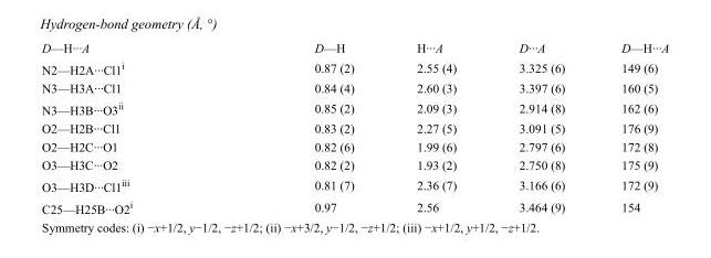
<table><tbody><tr><td>D—H···A</td><td>D—H</td><td>H···A</td><td>D···A</td><td>D—H···A</td></tr><tr><td>N2—H2A···Cl1<sup>i</sup></td><td>0.87 (2)</td><td>2.55 (4)</td><td>3.325 (6)</td><td>149 (6)</td></tr><tr><td>N3—H3A···Cl1</td><td>0.84 (4)</td><td>2.60 (3)</td><td>3.397 (6)</td><td>160 (5)</td></tr><tr><td>N3—H3B···O3<sup>ii</sup></td><td>0.85 (2)</td><td>2.09 (3)</td><td>2.914 (8)</td><td>162 (6)</td></tr><tr><td>O2—H2B···Cl1</td><td>0.83 (2)</td><td>2.27 (5)</td><td>3.091 (5)</td><td>176 (9)</td></tr><tr><td>O2—H2C···O1</td><td>0.82 (6)</td><td>1.99 (6)</td><td>2.797 (6)</td><td>172 (8)</td></tr><tr><td>O3—H3C···O2</td><td>0.82 (2)</td><td>1.93 (2)</td><td>2.750 (8)</td><td>175 (9)</td></tr><tr><td>O3—H3D···Cl1<sup>iii</sup></td><td>0.81 (7)</td><td>2.36 (7)</td><td>3.166 (6)</td><td>172 (9)</td></tr><tr><td>C25—H25B···O2<sup>i</sup></td><td>0.97</td><td>2.56</td><td>3.464 (9)</td><td>154</td></tr></tbody></table>